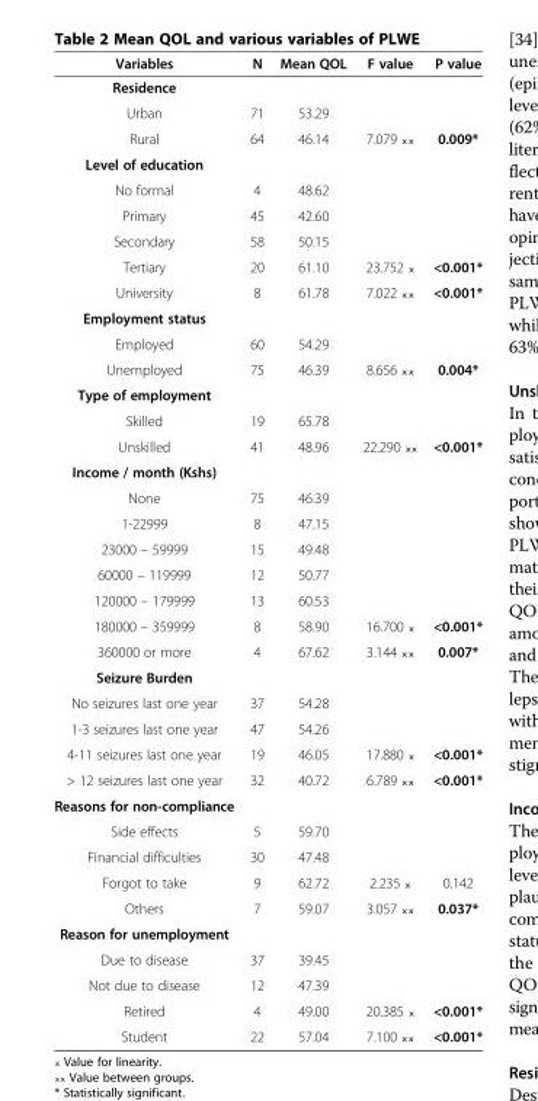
<table><thead><tr><td>Variables</td><td>N</td><td>Mean QOL</td><td>F value</td><td>P value</td></tr></thead><tbody><tr><td colspan="5">Residence</td></tr><tr><td>Urban</td><td>71</td><td>53.29</td><td></td><td></td></tr><tr><td>Rural</td><td>64</td><td>46.14</td><td>7.079 ₓₓ</td><td>0.009*</td></tr><tr><td colspan="5">Level of education</td></tr><tr><td>No formal</td><td>4</td><td>48.62</td><td></td><td></td></tr><tr><td>Primary</td><td>45</td><td>42.60</td><td></td><td></td></tr><tr><td>Secondary</td><td>58</td><td>50.15</td><td></td><td></td></tr><tr><td>Tertiary</td><td>20</td><td>61.10</td><td>23.752 ₓ</td><td>&lt;0.001*</td></tr><tr><td>University</td><td>8</td><td>61.78</td><td>7.022 ₓₓ</td><td>&lt;0.001*</td></tr><tr><td colspan="5">Employment status</td></tr><tr><td>Employed</td><td>60</td><td>54.29</td><td></td><td></td></tr><tr><td>Unemployed</td><td>75</td><td>46.39</td><td>8.656 ₓₓ</td><td>0.004*</td></tr><tr><td colspan="5">Type of employment</td></tr><tr><td>Skilled</td><td>19</td><td>65.78</td><td></td><td></td></tr><tr><td>Unskilled</td><td>41</td><td>48.96</td><td>22.290 ₓₓ</td><td>&lt;0.001*</td></tr><tr><td colspan="5">Income / month (Kshs)</td></tr><tr><td>None</td><td>75</td><td>46.39</td><td></td><td></td></tr><tr><td>1-22999</td><td>8</td><td>47.15</td><td></td><td></td></tr><tr><td>23000 – 59999</td><td>15</td><td>49.48</td><td></td><td></td></tr><tr><td>60000 – 119999</td><td>12</td><td>50.77</td><td></td><td></td></tr><tr><td>120000 – 179999</td><td>13</td><td>60.53</td><td></td><td></td></tr><tr><td>180000 – 359999</td><td>8</td><td>58.90</td><td>16.700 ₓ</td><td>&lt;0.001*</td></tr><tr><td>360000 or more</td><td>4</td><td>67.62</td><td>3.144 ₓₓ</td><td>0.007*</td></tr><tr><td colspan="5">Seizure Burden</td></tr><tr><td>No seizures last one year</td><td>37</td><td>54.28</td><td></td><td></td></tr><tr><td>1-3 seizures last one year</td><td>47</td><td>54.26</td><td></td><td></td></tr><tr><td>4-11 seizures last one year</td><td>19</td><td>46.05</td><td>17.880 ₓ</td><td>&lt;0.001*</td></tr><tr><td>&gt; 12 seizures last one year</td><td>32</td><td>40.72</td><td>6.789 ₓₓ</td><td>&lt;0.001*</td></tr><tr><td colspan="5">Reasons for non-compliance</td></tr><tr><td>Side effects</td><td>5</td><td>59.70</td><td></td><td></td></tr><tr><td>Financial difficulties</td><td>30</td><td>47.48</td><td></td><td></td></tr><tr><td>Forgot to take</td><td>9</td><td>62.72</td><td>2.235 ₓ</td><td>0.142</td></tr><tr><td>Others</td><td>7</td><td>59.07</td><td>3.057 ₓₓ</td><td>0.037*</td></tr><tr><td colspan="5">Reason for unemployment</td></tr><tr><td>Due to disease</td><td>37</td><td>39.45</td><td></td><td></td></tr><tr><td>Not due to disease</td><td>12</td><td>47.39</td><td></td><td></td></tr><tr><td>Retired</td><td>4</td><td>49.00</td><td>20.385 ₓ</td><td>&lt;0.001*</td></tr><tr><td>Student</td><td>22</td><td>57.04</td><td>7.100 ₓₓ</td><td>&lt;0.001*</td></tr></tbody></table>